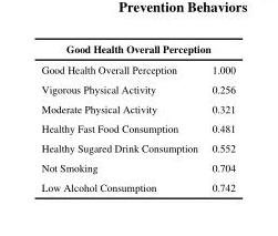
<table><thead><tr><td colspan="2">Good Health Overall Perception</td></tr><tr><td>Good Health Overall Perception</td><td>1.000</td></tr></thead><tbody><tr><td>Vigorous Physical Activity</td><td>0.256</td></tr><tr><td>Moderate Physical Activity</td><td>0.321</td></tr><tr><td>Healthy Fast Food Consumption</td><td>0.481</td></tr><tr><td>Healthy Sugared Drink Consumption</td><td>0.552</td></tr><tr><td>Not Smoking</td><td>0.704</td></tr><tr><td>Low Alcohol Consumption</td><td>0.742</td></tr></tbody></table>